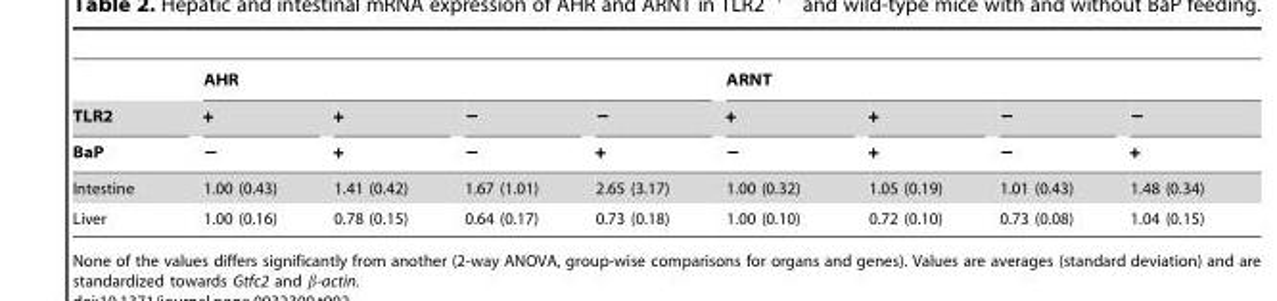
<table><thead><tr><td rowspan="3">TLR2 BaP</td><td colspan="4">AHR</td><td colspan="4">ARNT</td></tr><tr><td rowspan="2">+ −</td><td rowspan="2">+ +</td><td rowspan="2">− −</td><td rowspan="2">− +</td><td rowspan="2">+ −</td><td rowspan="2">+ +</td><td rowspan="2">− −</td><td rowspan="2">− +</td></tr><tr></tr></thead><tbody><tr><td>Intestine</td><td>1.00 (0.43)</td><td>1.41 (0.42)</td><td>1.67 (1.01)</td><td>2.65 (3.17)</td><td>1.00 (0.32)</td><td>1.05 (0.19)</td><td>1.01 (0.43)</td><td>1.48 (0.34)</td></tr><tr><td>Liver</td><td>1.00 (0.16)</td><td>0.78 (0.15)</td><td>0.64 (0.17)</td><td>0.73 (0.18)</td><td>1.00 (0.10)</td><td>0.72 (0.10)</td><td>0.73 (0.08)</td><td>1.04 (0.15)</td></tr></tbody></table>